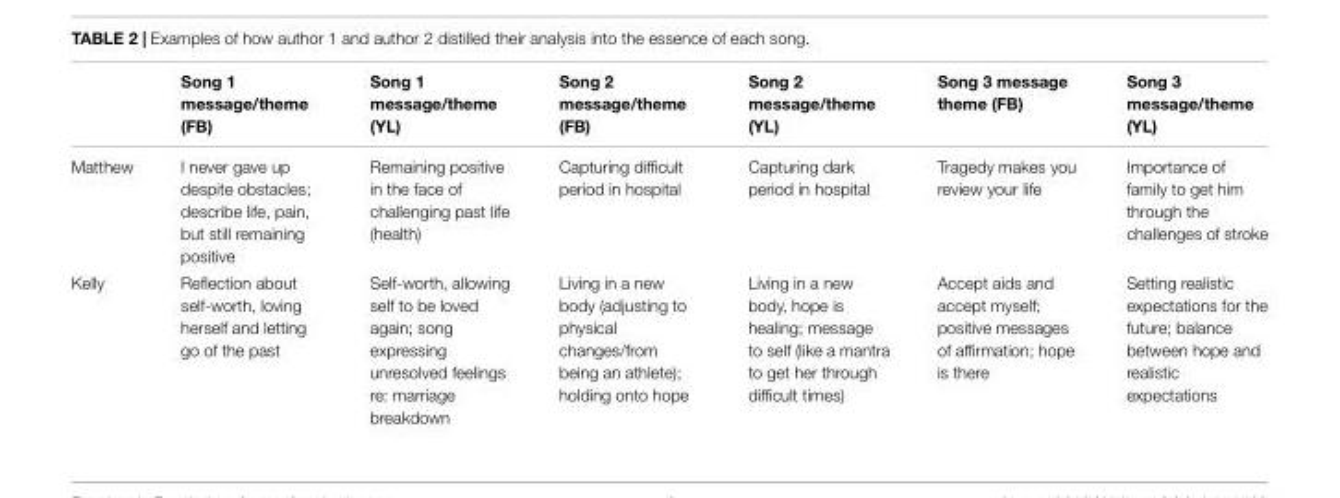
<table><thead><tr><td></td><td>Song 1 message/theme (FB)</td><td>Song 1 message/theme (YL)</td><td>Song 2 message/theme (FB)</td><td>Song 2 message/theme (YL)</td><td>Song 3 message theme (FB)</td><td>Song 3 message/theme (YL)</td></tr></thead><tbody><tr><td>Matthew</td><td>I never gave up despite obstacles; describe life, pain, but still remaining positive</td><td>Remaining positive in the face of challenging past life (health)</td><td>Capturing difficult period in hospital</td><td>Capturing dark period in hospital</td><td>Tragedy makes you review your life</td><td>Importance of family to get him through the challenges of stroke</td></tr><tr><td>Kelly</td><td>Reflection about self-worth, loving herself and letting go of the past</td><td>Self-worth, allowing self to be loved again; song expressing unresolved feelings re: marriage breakdown</td><td>Living in a new body (adjusting to physical changes/from being an athlete); holding onto hope</td><td>Living in a new body, hope is healing; message to self (like a mantra to get her through difficult times)</td><td>Accept aids and accept myself; positive messages of affirmation; hope is there</td><td>Setting realistic expectations for the future; balance between hope and realistic expectations</td></tr></tbody></table>